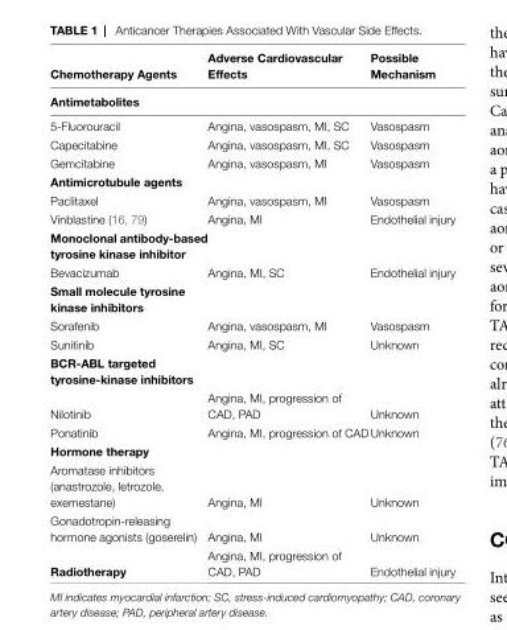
<table><thead><tr><td rowspan="2">Chemotherapy Agents Antimetabolites</td><td rowspan="2">Adverse Cardiovascular effects</td><td rowspan="2">possible mechanism</td></tr><tr></tr></thead><tbody><tr><td>5-Fluorouracil</td><td>Angina, vasospasm, MI, SC</td><td>Vasospasm</td></tr><tr><td>Capecitabine</td><td>Angina, vasospasm, MI, SC</td><td>Vasospasm</td></tr><tr><td>Gemcitabine</td><td>Angina, vasospasm, MI</td><td>Vasospasm</td></tr><tr><td colspan="3">Antimicrotubule agents</td></tr><tr><td>Paclitaxel</td><td>Angina, vasospasm, MI</td><td>Vasospasm</td></tr><tr><td>Vinblastine (16, 79)</td><td>Angina, MI</td><td>Endothelial injury</td></tr><tr><td colspan="3">monoclonal antibody-based tyrosine kinase inhibitor</td></tr><tr><td>Bevacizumab</td><td>Angina, MI, SC</td><td>Endothelial injury</td></tr><tr><td colspan="3">small molecule tyrosine kinase inhibitors</td></tr><tr><td>Sorafenib</td><td>Angina, vasospasm, MI</td><td>Vasospasm</td></tr><tr><td>Sunitinib</td><td>Angina, MI, SC</td><td>Unknown</td></tr><tr><td colspan="3">bCR-Abl targeted tyrosine-kinase inhibitors</td></tr><tr><td>Nilotinib</td><td>Angina, MI, progression of CAD, PAD</td><td>Unknown</td></tr><tr><td>Ponatinib</td><td>Angina, MI, progression of CAD</td><td>Unknown</td></tr><tr><td colspan="3">hormone therapy</td></tr><tr><td>Aromatase inhibitors (anastrozole, letrozole, exemestane)</td><td>Angina, MI</td><td>Unknown</td></tr><tr><td>Gonadotropin-releasing hormone agonists (goserelin)</td><td>Angina, MI</td><td>Unknown</td></tr><tr><td>Radiotherapy</td><td>Angina, MI, progression of CAD, PAD</td><td>Endothelial injury</td></tr></tbody></table>